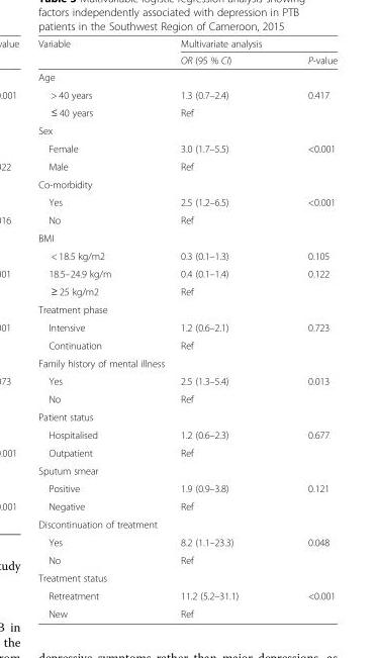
<table><thead><tr><td rowspan="2">Variable</td><td colspan="2">Multivariate analysis</td></tr><tr><td>OR (95 % CI)</td><td>P-value</td></tr></thead><tbody><tr><td colspan="3">Age</td></tr><tr><td>&gt; 40 years</td><td>1.3 (0.7–2.4)</td><td>0.417</td></tr><tr><td>≤ 40 years</td><td>Ref</td><td></td></tr><tr><td colspan="3">Sex</td></tr><tr><td>Female</td><td>3.0 (1.7–5.5)</td><td>&lt;0.001</td></tr><tr><td>Male</td><td>Ref</td><td></td></tr><tr><td colspan="3">Co-morbidity</td></tr><tr><td>Yes</td><td>2.5 (1.2–6.5)</td><td>&lt;0.001</td></tr><tr><td>No</td><td>Ref</td><td></td></tr><tr><td colspan="3">BMI</td></tr><tr><td>&lt; 18.5 kg/m2</td><td>0.3 (0.1–1.3)</td><td>0.105</td></tr><tr><td>18.5–24.9 kg/m</td><td>0.4 (0.1–1.4)</td><td>0.122</td></tr><tr><td>≥ 25 kg/m2</td><td>Ref</td><td></td></tr><tr><td colspan="3">Treatment phase</td></tr><tr><td>Intensive</td><td>1.2 (0.6–2.1)</td><td>0.723</td></tr><tr><td>Continuation</td><td>Ref</td><td></td></tr><tr><td colspan="3">Family history of mental illness</td></tr><tr><td>Yes</td><td>2.5 (1.3–5.4)</td><td>0.013</td></tr><tr><td>No</td><td>Ref</td><td></td></tr><tr><td colspan="3">Patient status</td></tr><tr><td>Hospitalised</td><td>1.2 (0.6–2.3)</td><td>0.677</td></tr><tr><td>Outpatient</td><td>Ref</td><td></td></tr><tr><td colspan="3">Sputum smear</td></tr><tr><td>Positive</td><td>1.9 (0.9–3.8)</td><td>0.121</td></tr><tr><td>Negative</td><td>Ref</td><td></td></tr><tr><td colspan="3">Discontinuation of treatment</td></tr><tr><td>Yes</td><td>8.2 (1.1–23.3)</td><td>0.048</td></tr><tr><td>No</td><td>Ref</td><td></td></tr><tr><td colspan="3">Treatment status</td></tr><tr><td>Retreatment</td><td>11.2 (5.2–31.1)</td><td>&lt;0.001</td></tr><tr><td>New</td><td>Ref</td><td></td></tr></tbody></table>